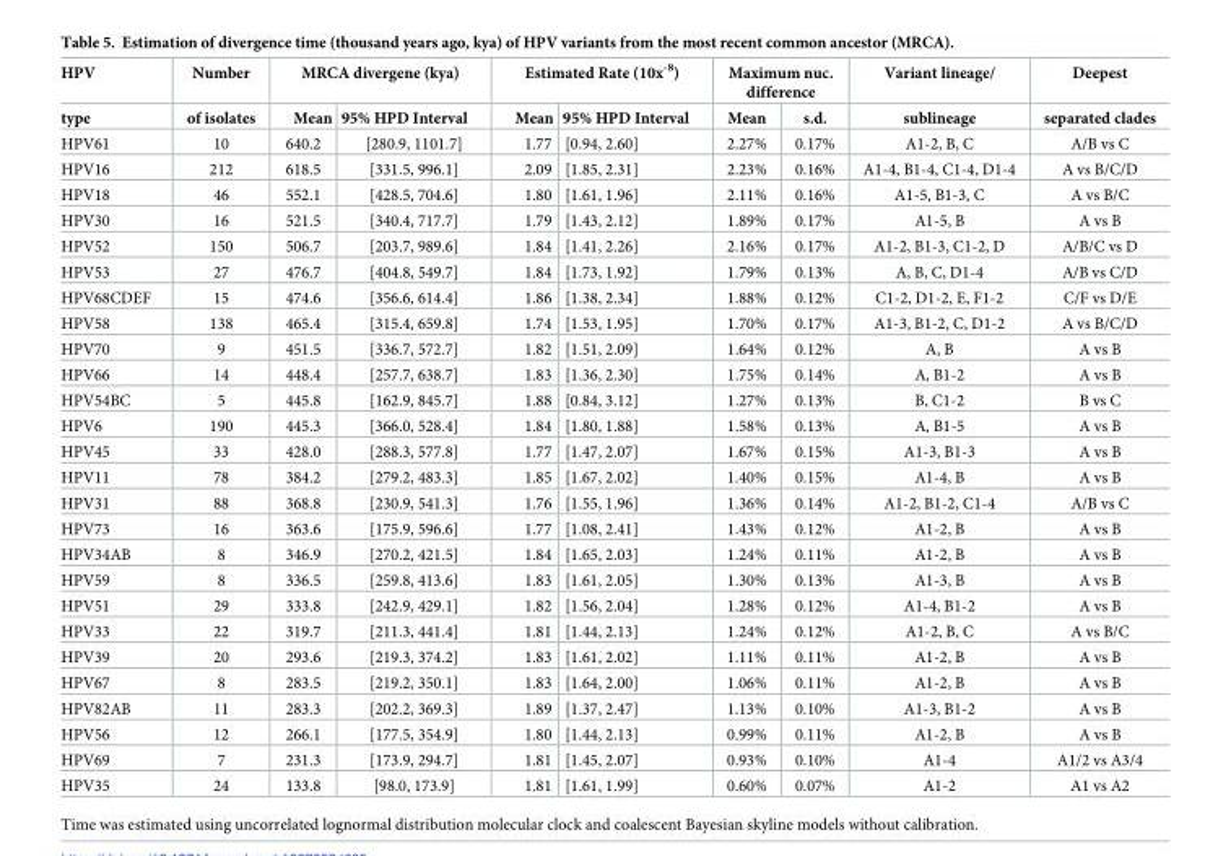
<table><thead><tr><td rowspan="2">HPV type</td><td rowspan="2">Number of isolates</td><td colspan="2">MRCA divergene (kya)</td><td colspan="2">Estimated Rate (10x<sup>-8</sup>)</td><td colspan="2">Maximum nuc. difference</td><td rowspan="2">Variant lineage/ sublineage</td><td rowspan="2">Deepest separated clades</td></tr><tr><td>Mean</td><td>95% HPD Interval</td><td>Mean</td><td>95% HPD Interval</td><td>Mean</td><td>s.d.</td></tr></thead><tbody><tr><td>HPV61</td><td>10</td><td>640.2</td><td>[280.9, 1101.7]</td><td>1.77</td><td>[0.94, 2.60]</td><td>2.27%</td><td>0.17%</td><td>A1-2, B, C</td><td>A/B vs C</td></tr><tr><td>HPV16</td><td>212</td><td>618.5</td><td>[331.5, 996.1]</td><td>2.09</td><td>[1.85, 2.31]</td><td>2.23%</td><td>0.16%</td><td>A1-4, B1-4, C1-4, D1-4</td><td>A vs B/C/D</td></tr><tr><td>HPV18</td><td>46</td><td>552.1</td><td>[428.5, 704.6]</td><td>1.80</td><td>[1.61, 1.96]</td><td>2.11%</td><td>0.16%</td><td>A1-5, B1-3, C</td><td>A vs B/C</td></tr><tr><td>HPV30</td><td>16</td><td>521.5</td><td>[340.4, 717.7]</td><td>1.79</td><td>[1.43, 2.12]</td><td>1.89%</td><td>0.17%</td><td>A1-5, B</td><td>A vs B</td></tr><tr><td>HPV52</td><td>150</td><td>506.7</td><td>[203.7, 989.6]</td><td>1.84</td><td>[1.41, 2.26]</td><td>2.16%</td><td>0.17%</td><td>A1-2, B1-3, C1-2, D</td><td>A/B/C vs D</td></tr><tr><td>HPV53</td><td>27</td><td>476.7</td><td>[404.8, 549.7]</td><td>1.84</td><td>[1.73, 1.92]</td><td>1.79%</td><td>0.13%</td><td>A, B, C, D1-4</td><td>A/B vs C/D</td></tr><tr><td>HPV68CDEF</td><td>15</td><td>474.6</td><td>[356.6, 614.4]</td><td>1.86</td><td>[1.38, 2.34]</td><td>1.88%</td><td>0.12%</td><td>C1-2, D1-2, E, F1-2</td><td>C/F vs D/E</td></tr><tr><td>HPV58</td><td>138</td><td>465.4</td><td>[315.4, 659.8]</td><td>1.74</td><td>[1.53, 1.95]</td><td>1.70%</td><td>0.17%</td><td>A1-3, B1-2, C, D1-2</td><td>A vs B/C/D</td></tr><tr><td>HPV70</td><td>9</td><td>451.5</td><td>[336.7, 572.7]</td><td>1.82</td><td>[1.51, 2.09]</td><td>1.64%</td><td>0.12%</td><td>A, B</td><td>A vs B</td></tr><tr><td>HPV66</td><td>14</td><td>448.4</td><td>[257.7, 638.7]</td><td>1.83</td><td>[1.36, 2.30]</td><td>1.75%</td><td>0.14%</td><td>A, B1-2</td><td>A vs B</td></tr><tr><td>HPV54BC</td><td>5</td><td>445.8</td><td>[162.9, 845.7]</td><td>1.88</td><td>[0.84, 3.12]</td><td>1.27%</td><td>0.13%</td><td>B, C1-2</td><td>B vs C</td></tr><tr><td>HPV6</td><td>190</td><td>445.3</td><td>[366.0, 528.4]</td><td>1.84</td><td>[1.80, 1.88]</td><td>1.58%</td><td>0.13%</td><td>A, B1-5</td><td>A vs B</td></tr><tr><td>HPV45</td><td>33</td><td>428.0</td><td>[288.3, 577.8]</td><td>1.77</td><td>[1.47, 2.07]</td><td>1.67%</td><td>0.15%</td><td>A1-3, B1-3</td><td>A vs B</td></tr><tr><td>HPV11</td><td>78</td><td>384.2</td><td>[279.2, 483.3]</td><td>1.85</td><td>[1.67, 2.02]</td><td>1.40%</td><td>0.15%</td><td>A1-4, B</td><td>A vs B</td></tr><tr><td>HPV31</td><td>88</td><td>368.8</td><td>[230.9, 541.3]</td><td>1.76</td><td>[1.55, 1.96]</td><td>1.36%</td><td>0.14%</td><td>A1-2, B1-2, C1-4</td><td>A/B vs C</td></tr><tr><td>HPV73</td><td>16</td><td>363.6</td><td>[175.9, 596.6]</td><td>1.77</td><td>[1.08, 2.41]</td><td>1.43%</td><td>0.12%</td><td>A1-2, B</td><td>A vs B</td></tr><tr><td>HPV34AB</td><td>8</td><td>346.9</td><td>[270.2, 421.5]</td><td>1.84</td><td>[1.65, 2.03]</td><td>1.24%</td><td>0.11%</td><td>A1-2, B</td><td>A vs B</td></tr><tr><td>HPV59</td><td>8</td><td>336.5</td><td>[259.8, 413.6]</td><td>1.83</td><td>[1.61, 2.05]</td><td>1.30%</td><td>0.13%</td><td>A1-3, B</td><td>A vs B</td></tr><tr><td>HPV51</td><td>29</td><td>333.8</td><td>[242.9, 429.1]</td><td>1.82</td><td>[1.56, 2.04]</td><td>1.28%</td><td>0.12%</td><td>A1-4, B1-2</td><td>A vs B</td></tr><tr><td>HPV33</td><td>22</td><td>319.7</td><td>[211.3, 441.4]</td><td>1.81</td><td>[1.44, 2.13]</td><td>1.24%</td><td>0.12%</td><td>A1-2, B, C</td><td>A vs B/C</td></tr><tr><td>HPV39</td><td>20</td><td>293.6</td><td>[219.3, 374.2]</td><td>1.83</td><td>[1.61, 2.02]</td><td>1.11%</td><td>0.11%</td><td>A1-2, B</td><td>A vs B</td></tr><tr><td>HPV67</td><td>8</td><td>283.5</td><td>[219.2, 350.1]</td><td>1.83</td><td>[1.64, 2.00]</td><td>1.06%</td><td>0.11%</td><td>A1-2, B</td><td>A vs B</td></tr><tr><td>HPV82AB</td><td>11</td><td>283.3</td><td>[202.2, 369.3]</td><td>1.89</td><td>[1.37, 2.47]</td><td>1.13%</td><td>0.10%</td><td>A1-3, B1-2</td><td>A vs B</td></tr><tr><td>HPV56</td><td>12</td><td>266.1</td><td>[177.5, 354.9]</td><td>1.80</td><td>[1.44, 2.13]</td><td>0.99%</td><td>0.11%</td><td>A1-2, B</td><td>A vs B</td></tr><tr><td>HPV69</td><td>7</td><td>231.3</td><td>[173.9, 294.7]</td><td>1.81</td><td>[1.45, 2.07]</td><td>0.93%</td><td>0.10%</td><td>A1-4</td><td>A1/2 vs A3/4</td></tr><tr><td>HPV35</td><td>24</td><td>133.8</td><td>[98.0, 173.9]</td><td>1.81</td><td>[1.61, 1.99]</td><td>0.60%</td><td>0.07%</td><td>A1-2</td><td>A1 vs A2</td></tr></tbody></table>